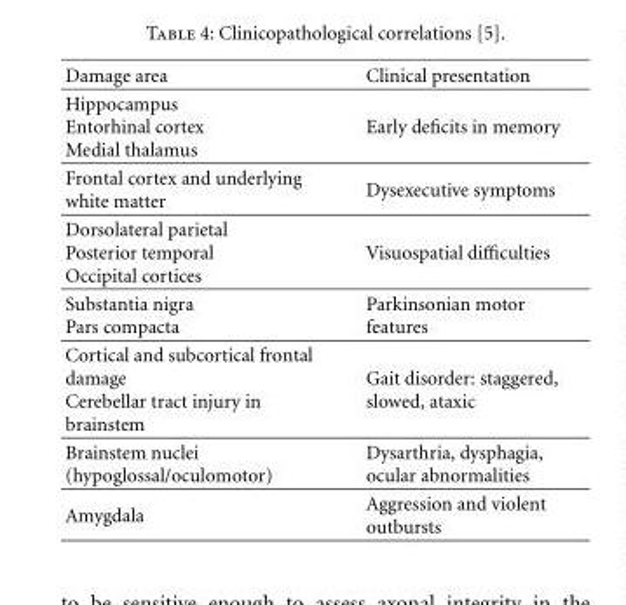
<table><thead><tr><td>Damage area</td><td>Clinical presentation</td></tr></thead><tbody><tr><td>Hippocampus Entorhinal cortex Medial thalamus</td><td>Early deficits in memory</td></tr><tr><td>Frontal cortex and underlying white matter</td><td>Dysexecutive symptoms</td></tr><tr><td>Dorsolateral parietal Posterior temporal Occipital cortices</td><td>Visuospatial difficulties</td></tr><tr><td>Substantia nigra Pars compacta</td><td>Parkinsonian motor features</td></tr><tr><td>Cortical and subcortical frontal damage Cerebellar tract injury in brainstem</td><td>Gait disorder: staggered, slowed, ataxic</td></tr><tr><td>Brainstem nuclei (hypoglossal/oculomotor)</td><td>Dysarthria, dysphagia, ocular abnormalities</td></tr><tr><td>Amygdala</td><td>Aggression and violent outbursts</td></tr></tbody></table>